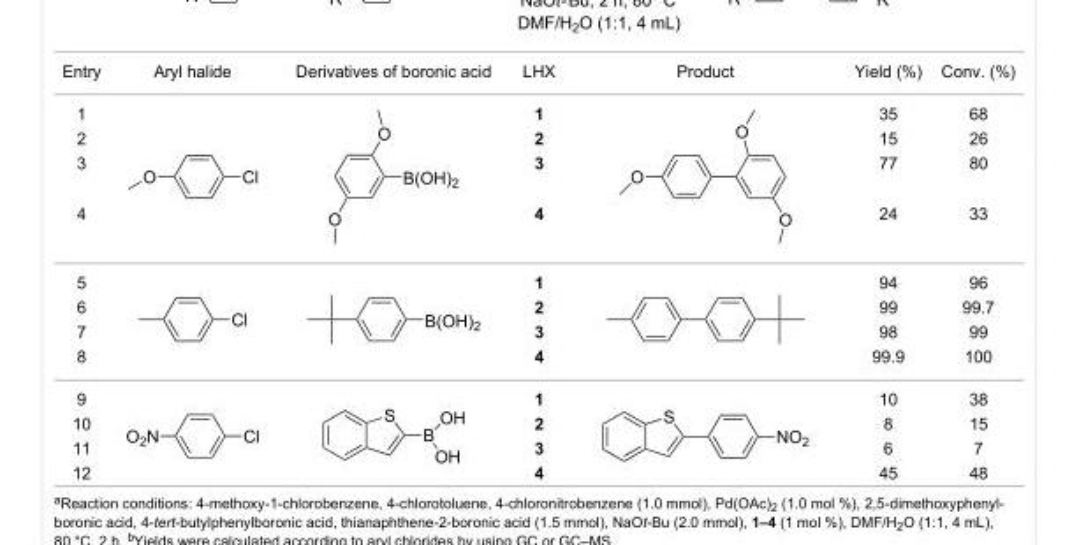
<table><tbody><tr><td>Entry</td><td>Aryl halide</td><td>Derivatives of boronic acid</td><td>LHX</td><td>Product</td><td>Yield (%)</td><td>Conv. (%)</td></tr><tr><td>1</td><td rowspan="4"></td><td rowspan="4"></td><td>1</td><td rowspan="4"></td><td>35</td><td>68</td></tr><tr><td>2</td><td>2</td><td>15</td><td>26</td></tr><tr><td>3</td><td>3</td><td>77</td><td>80</td></tr><tr><td>4</td><td>4</td><td>24</td><td>33</td></tr><tr><td>5</td><td rowspan="4"></td><td rowspan="4"></td><td>1</td><td rowspan="4"></td><td>94</td><td>96</td></tr><tr><td>6</td><td>2</td><td>99</td><td>99.7</td></tr><tr><td>7</td><td>3</td><td>98</td><td>99</td></tr><tr><td>8</td><td>4</td><td>99.9</td><td>100</td></tr><tr><td>9</td><td rowspan="4"></td><td rowspan="4"></td><td>1</td><td rowspan="4"></td><td>10</td><td>38</td></tr><tr><td>10</td><td>2</td><td>8</td><td>15</td></tr><tr><td>11</td><td>3</td><td>6</td><td>7</td></tr><tr><td>12</td><td>4</td><td>45</td><td>48</td></tr></tbody></table>